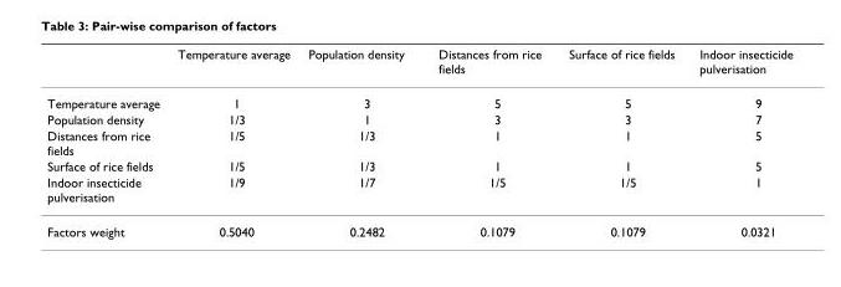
<table><thead><tr><td></td><td>Temperature average</td><td>Population density</td><td>Distances from rice fields</td><td>Surface of rice fields</td><td>Indoor insecticide pulverisation</td></tr></thead><tbody><tr><td>Temperature average</td><td>1</td><td>3</td><td>5</td><td>5</td><td>9</td></tr><tr><td>Population density</td><td>1/3</td><td>1</td><td>3</td><td>3</td><td>7</td></tr><tr><td>Distances from rice fields</td><td>1/5</td><td>1/3</td><td>1</td><td>1</td><td>5</td></tr><tr><td>Surface of rice fields</td><td>1/5</td><td>1/3</td><td>1</td><td>1</td><td>5</td></tr><tr><td>Indoor insecticide pulverisation</td><td>1/9</td><td>1/7</td><td>1/5</td><td>1/5</td><td>1</td></tr><tr><td>Factors weight</td><td>0.5040</td><td>0.2482</td><td>0.1079</td><td>0.1079</td><td>0.0321</td></tr></tbody></table>